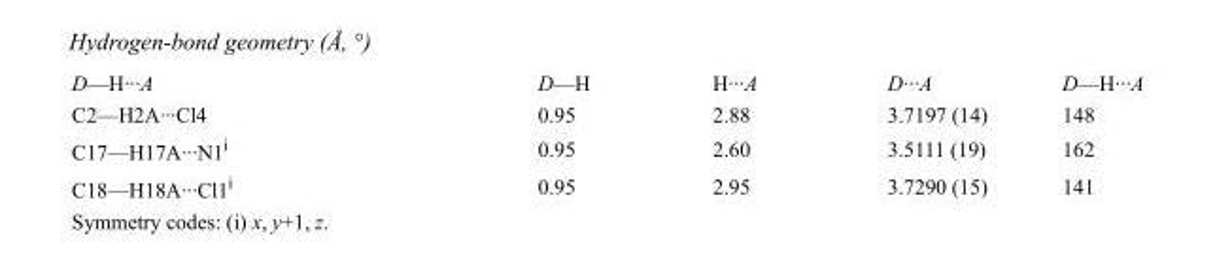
<table><tbody><tr><td>D—H···A</td><td>D—H</td><td>H···A</td><td>D···A</td><td>D—H···A</td></tr><tr><td>C2—H2A···Cl4</td><td>0.95</td><td>2.88</td><td>3.7197 (14)</td><td>148</td></tr><tr><td>C17—H17A···N1<sup>i</sup></td><td>0.95</td><td>2.60</td><td>3.5111 (19)</td><td>162</td></tr><tr><td>C18—H18A···Cl1<sup>i</sup></td><td>0.95</td><td>2.95</td><td>3.7290 (15)</td><td>141</td></tr></tbody></table>